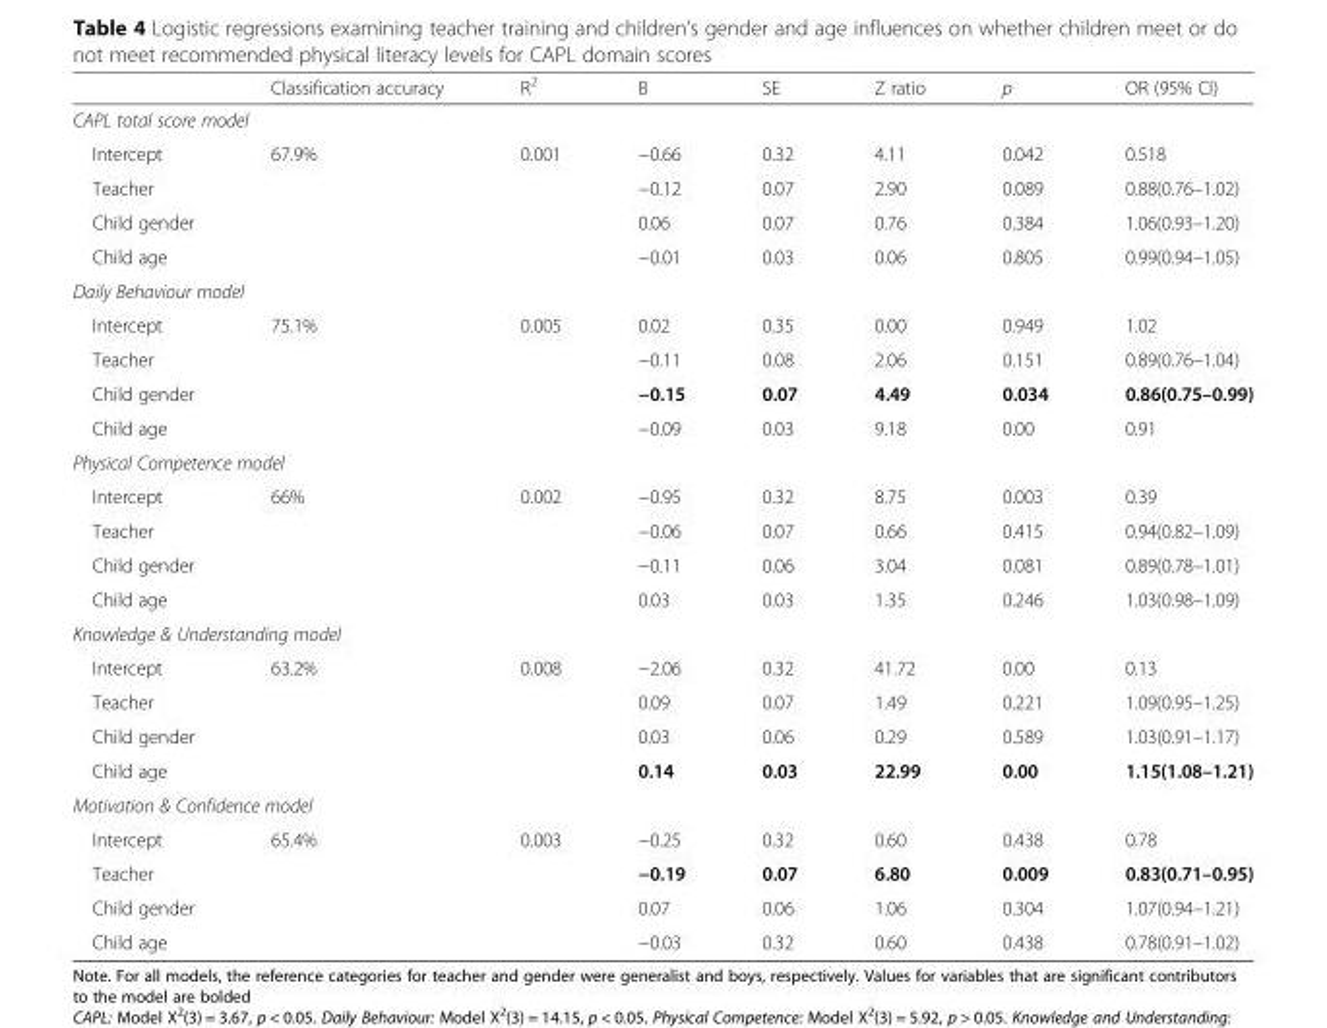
<table><thead><tr><td></td><td>Classification accuracy</td><td>R<sup>2</sup></td><td>B</td><td>SE</td><td>Z ratio</td><td>p</td><td>OR (95% CI)</td></tr></thead><tbody><tr><td colspan="8">CAPL total score model</td></tr><tr><td>Intercept</td><td>67.9%</td><td>0.001</td><td>−0.66</td><td>0.32</td><td>4.11</td><td>0.042</td><td>0.518</td></tr><tr><td>Teacher</td><td></td><td></td><td>−0.12</td><td>0.07</td><td>2.90</td><td>0.089</td><td>0.88(0.76–1.02)</td></tr><tr><td>Child gender</td><td></td><td></td><td>0.06</td><td>0.07</td><td>0.76</td><td>0.384</td><td>1.06(0.93–1.20)</td></tr><tr><td>Child age</td><td></td><td></td><td>−0.01</td><td>0.03</td><td>0.06</td><td>0.805</td><td>0.99(0.94–1.05)</td></tr><tr><td colspan="8">Daily Behaviour model</td></tr><tr><td>Intercept</td><td>75.1%</td><td>0.005</td><td>0.02</td><td>0.35</td><td>0.00</td><td>0.949</td><td>1.02</td></tr><tr><td>Teacher</td><td></td><td></td><td>−0.11</td><td>0.08</td><td>2.06</td><td>0.151</td><td>0.89(0.76–1.04)</td></tr><tr><td>Child gender</td><td></td><td></td><td>−0.15</td><td>0.07</td><td>4.49</td><td>0.034</td><td>0.86(0.75–0.99)</td></tr><tr><td>Child age</td><td></td><td></td><td>−0.09</td><td>0.03</td><td>9.18</td><td>0.00</td><td>0.91</td></tr><tr><td colspan="8">Physical Competence model</td></tr><tr><td>Intercept</td><td>66%</td><td>0.002</td><td>−0.95</td><td>0.32</td><td>8.75</td><td>0.003</td><td>0.39</td></tr><tr><td>Teacher</td><td></td><td></td><td>−0.06</td><td>0.07</td><td>0.66</td><td>0.415</td><td>0.94(0.82–1.09)</td></tr><tr><td>Child gender</td><td></td><td></td><td>−0.11</td><td>0.06</td><td>3.04</td><td>0.081</td><td>0.89(0.78–1.01)</td></tr><tr><td>Child age</td><td></td><td></td><td>0.03</td><td>0.03</td><td>1.35</td><td>0.246</td><td>1.03(0.98–1.09)</td></tr><tr><td colspan="8">Knowledge &amp; Understanding model</td></tr><tr><td>Intercept</td><td>63.2%</td><td>0.008</td><td>−2.06</td><td>0.32</td><td>41.72</td><td>0.00</td><td>0.13</td></tr><tr><td>Teacher</td><td></td><td></td><td>0.09</td><td>0.07</td><td>1.49</td><td>0.221</td><td>1.09(0.95–1.25)</td></tr><tr><td>Child gender</td><td></td><td></td><td>0.03</td><td>0.06</td><td>0.29</td><td>0.589</td><td>1.03(0.91–1.17)</td></tr><tr><td>Child age</td><td></td><td></td><td>0.14</td><td>0.03</td><td>22.99</td><td>0.00</td><td>1.15(1.08–1.21)</td></tr><tr><td colspan="8">Motivation &amp; Confidence model</td></tr><tr><td>Intercept</td><td>65.4%</td><td>0.003</td><td>−0.25</td><td>0.32</td><td>0.60</td><td>0.438</td><td>0.78</td></tr><tr><td>Teacher</td><td></td><td></td><td>−0.19</td><td>0.07</td><td>6.80</td><td>0.009</td><td>0.83(0.71–0.95)</td></tr><tr><td>Child gender</td><td></td><td></td><td>0.07</td><td>0.06</td><td>1.06</td><td>0.304</td><td>1.07(0.94–1.21)</td></tr><tr><td>Child age</td><td></td><td></td><td>−0.03</td><td>0.32</td><td>0.60</td><td>0.438</td><td>0.78(0.91–1.02)</td></tr></tbody></table>